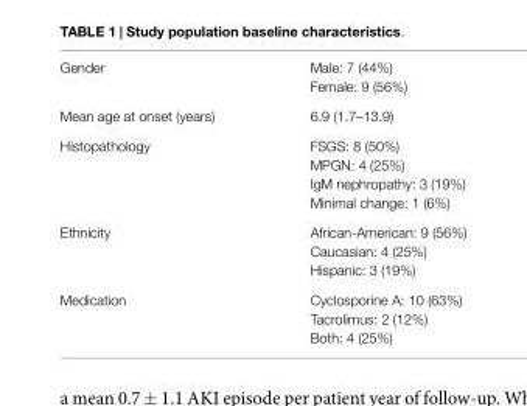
<table><tbody><tr><td rowspan="2">Gender</td><td>Male: 7 (44%)</td></tr><tr><td>Female: 9 (56%)</td></tr><tr><td>Mean age at onset (years)</td><td>6.9 (1.7–13.9)</td></tr><tr><td rowspan="4">Histopathology</td><td>FSGS: 8 (50%)</td></tr><tr><td>MPGN: 4 (25%)</td></tr><tr><td>IgM nephropathy: 3 (19%)</td></tr><tr><td>Minimal change: 1 (6%)</td></tr><tr><td rowspan="3">Ethnicity</td><td>African-American: 9 (56%)</td></tr><tr><td>Caucasian: 4 (25%)</td></tr><tr><td>Hispanic: 3 (19%)</td></tr><tr><td rowspan="3">Medication</td><td>Cyclosporine A: 10 (63%)</td></tr><tr><td>Tacrolimus: 2 (12%)</td></tr><tr><td>Both: 4 (25%)</td></tr></tbody></table>